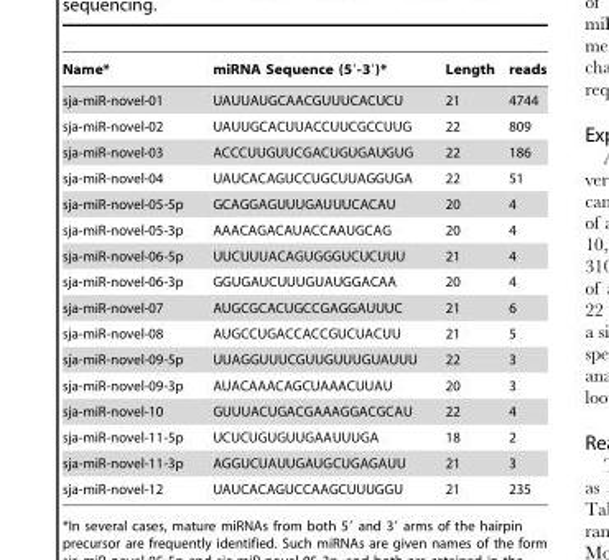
<table><thead><tr><td>Name*</td><td>miRNA Sequence (5′-3′)*</td><td>Length</td><td>reads</td></tr></thead><tbody><tr><td>sja-miR-novel-01</td><td>UAUUAUGCAACGUUUCACUCU</td><td>21</td><td>4744</td></tr><tr><td>sja-miR-novel-02</td><td>UAUUGCACUUACCUUCGCCUUG</td><td>22</td><td>809</td></tr><tr><td>sja-miR-novel-03</td><td>ACCCUUGUUCGACUGUGAUGUG</td><td>22</td><td>186</td></tr><tr><td>sja-miR-novel-04</td><td>UAUCACAGUCCUGCUUAGGUGA</td><td>22</td><td>51</td></tr><tr><td>sja-miR-novel-05-5p</td><td>GCAGGAGUUUGAUUUCACAU</td><td>20</td><td>4</td></tr><tr><td>sja-miR-novel-05-3p</td><td>AAACAGACAUACCAAUGCAG</td><td>20</td><td>4</td></tr><tr><td>sja-miR-novel-06-5p</td><td>UUCUUUACAGUGGGUCUCUUU</td><td>21</td><td>4</td></tr><tr><td>sja-miR-novel-06-3p</td><td>GGUGAUCUUUGUAUGGACAA</td><td>20</td><td>4</td></tr><tr><td>sja-miR-novel-07</td><td>AUGCGCACUGCCGAGGAUUUC</td><td>21</td><td>6</td></tr><tr><td>sja-miR-novel-08</td><td>AUGCCUGACCACCGUCUACUU</td><td>21</td><td>5</td></tr><tr><td>sja-miR-novel-09-5p</td><td>UUAGGUUUCGUUGUUUGUAUUU</td><td>22</td><td>3</td></tr><tr><td>sja-miR-novel-09-3p</td><td>AUACAAACAGCUAAACUUAU</td><td>20</td><td>3</td></tr><tr><td>sja-miR-novel-10</td><td>GUUUACUGACGAAAGGACGCAU</td><td>22</td><td>4</td></tr><tr><td>sja-miR-novel-11-5p</td><td>UCUCUGUGUUGAAUUUGA</td><td>18</td><td>2</td></tr><tr><td>sja-miR-novel-11-3p</td><td>AGGUCUAUUGAUGCUGAGAUU</td><td>21</td><td>3</td></tr><tr><td>sja-miR-novel-12</td><td>UAUCACAGUCCAAGCUUUGGU</td><td>21</td><td>235</td></tr></tbody></table>